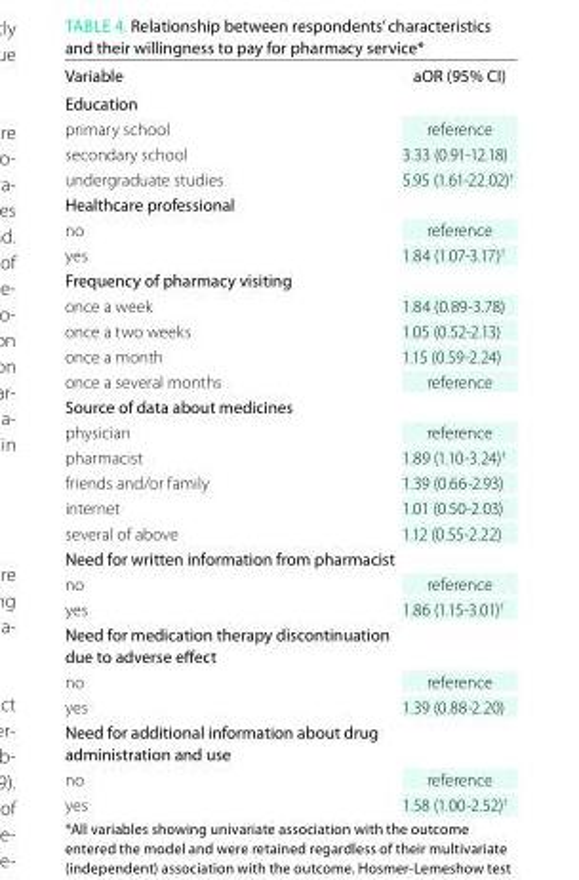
<table><thead><tr><td>Variable</td><td>aOR (95% CI)</td></tr></thead><tbody><tr><td colspan="2">Education</td></tr><tr><td>primary school</td><td>reference</td></tr><tr><td>secondary school</td><td>3.33 (0.91-12.18)</td></tr><tr><td>undergraduate studies</td><td>5.95 (1.61-22.02)<sup>†</sup></td></tr><tr><td colspan="2">Healthcare professional</td></tr><tr><td>no</td><td>reference</td></tr><tr><td>yes</td><td>1.84 (1.07-3.17)<sup>†</sup></td></tr><tr><td colspan="2">Frequency of pharmacy visiting</td></tr><tr><td>once a week</td><td>1.84 (0.89-3.78)</td></tr><tr><td>once a two weeks</td><td>1.05 (0.52-2.13)</td></tr><tr><td>once a month</td><td>1.15 (0.59-2.24)</td></tr><tr><td>once a several months</td><td>reference</td></tr><tr><td colspan="2">Source of data about medicines</td></tr><tr><td>physician</td><td>reference</td></tr><tr><td>pharmacist</td><td>1.89 (1.10-3.24)<sup>†</sup></td></tr><tr><td>friends and/or family</td><td>1.39 (0.66-2.93)</td></tr><tr><td>internet</td><td>1.01 (0.50-2.03)</td></tr><tr><td>several of above</td><td>1.12 (0.55-2.22)</td></tr><tr><td colspan="2">Need for written information from pharmacist</td></tr><tr><td>no</td><td>reference</td></tr><tr><td>yes</td><td>1.86 (1.15-3.01)<sup>†</sup></td></tr><tr><td colspan="2">Need for medication therapy discontinuation due to adverse effect</td></tr><tr><td>no</td><td>reference</td></tr><tr><td>yes</td><td>1.39 (0.88-2.20)</td></tr><tr><td colspan="2">Need for additional information about drug administration and use</td></tr><tr><td>no</td><td>reference</td></tr><tr><td>yes</td><td>1.58 (1.00-2.52)<sup>†</sup></td></tr></tbody></table>